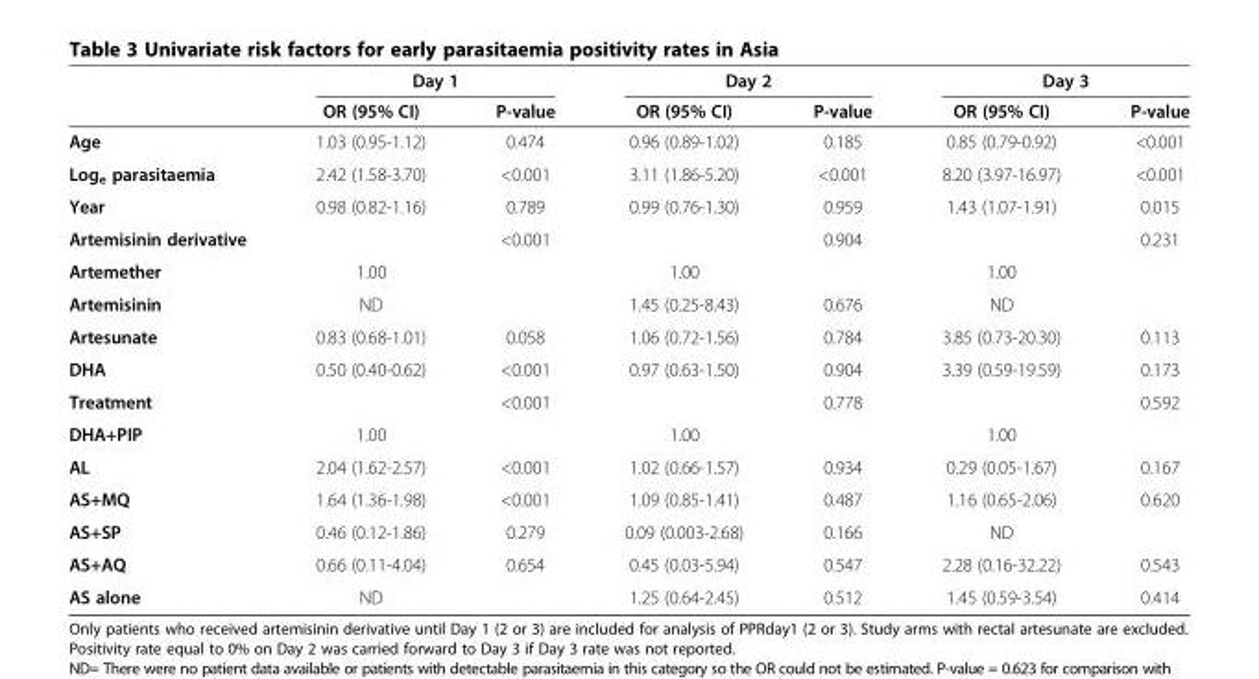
<table><thead><tr><td rowspan="2"></td><td colspan="2">Day 1</td><td colspan="2">Day 2</td><td colspan="2">Day 3</td></tr><tr><td>OR (95% CI)</td><td>P-value</td><td>OR (95% CI)</td><td>P-value</td><td>OR (95% CI)</td><td>P-value</td></tr></thead><tbody><tr><td>Age</td><td>1.03 (0.95-1.12)</td><td>0.474</td><td>0.96 (0.89-1.02)</td><td>0.185</td><td>0.85 (0.79-0.92)</td><td>&lt;0.001</td></tr><tr><td>Log<sub>e</sub> parasitaemia</td><td>2.42 (1.58-3.70)</td><td>&lt;0.001</td><td>3.11 (1.86-5.20)</td><td>&lt;0.001</td><td>8.20 (3.97-16.97)</td><td>&lt;0.001</td></tr><tr><td>Year</td><td>0.98 (0.82-1.16)</td><td>0.789</td><td>0.99 (0.76-1.30)</td><td>0.959</td><td>1.43 (1.07-1.91)</td><td>0.015</td></tr><tr><td>Artemisinin derivative</td><td></td><td>&lt;0.001</td><td></td><td>0.904</td><td></td><td>0.231</td></tr><tr><td>Artemether</td><td>1.00</td><td></td><td>1.00</td><td></td><td>1.00</td><td></td></tr><tr><td>Artemisinin</td><td>ND</td><td></td><td>1.45 (0.25-8.43)</td><td>0.676</td><td>ND</td><td></td></tr><tr><td>Artesunate</td><td>0.83 (0.68-1.01)</td><td>0.058</td><td>1.06 (0.72-1.56)</td><td>0.784</td><td>3.85 (0.73-20.30)</td><td>0.113</td></tr><tr><td>DHA</td><td>0.50 (0.40-0.62)</td><td>&lt;0.001</td><td>0.97 (0.63-1.50)</td><td>0.904</td><td>3.39 (0.59-19.59)</td><td>0.173</td></tr><tr><td>Treatment</td><td></td><td>&lt;0.001</td><td></td><td>0.778</td><td></td><td>0.592</td></tr><tr><td>DHA+PIP</td><td>1.00</td><td></td><td>1.00</td><td></td><td>1.00</td><td></td></tr><tr><td>AL</td><td>2.04 (1.62-2.57)</td><td>&lt;0.001</td><td>1.02 (0.66-1.57)</td><td>0.934</td><td>0.29 (0.05-1.67)</td><td>0.167</td></tr><tr><td>AS+MQ</td><td>1.64 (1.36-1.98)</td><td>&lt;0.001</td><td>1.09 (0.85-1.41)</td><td>0.487</td><td>1.16 (0.65-2.06)</td><td>0.620</td></tr><tr><td>AS+SP</td><td>0.46 (0.12-1.86)</td><td>0.279</td><td>0.09 (0.003-2.68)</td><td>0.166</td><td>ND</td><td></td></tr><tr><td>AS+AQ</td><td>0.66 (0.11-4.04)</td><td>0.654</td><td>0.45 (0.03-5.94)</td><td>0.547</td><td>2.28 (0.16-32.22)</td><td>0.543</td></tr><tr><td>AS alone</td><td>ND</td><td></td><td>1.25 (0.64-2.45)</td><td>0.512</td><td>1.45 (0.59-3.54)</td><td>0.414</td></tr></tbody></table>